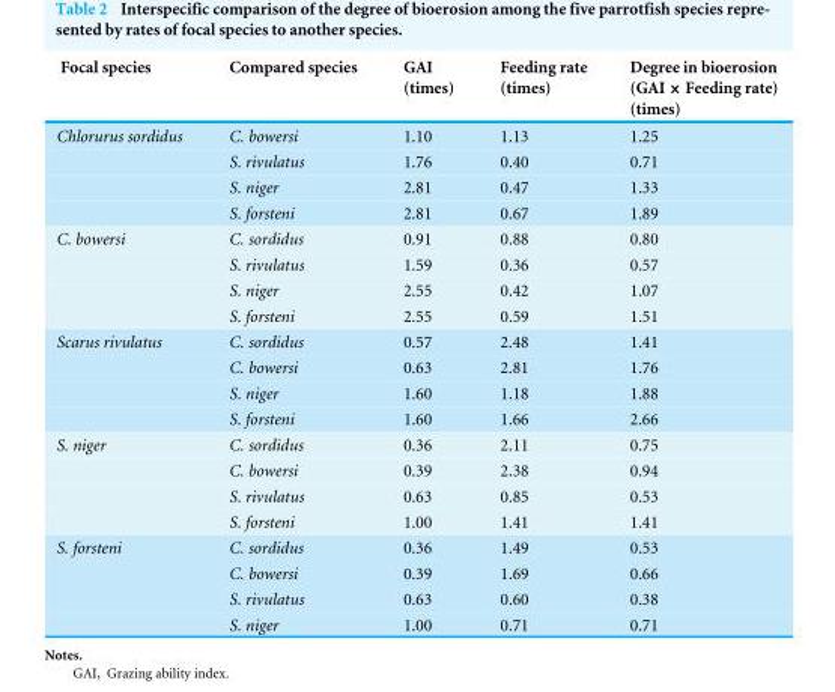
<table><thead><tr><td>Focal species</td><td>Compared species</td><td>GAI (times)</td><td>Feeding rate (times)</td><td>Degree in bioerosion (GAI × Feeding rate) (times)</td></tr></thead><tbody><tr><td rowspan="4">Chlorurus sordidus</td><td>C. bowersi</td><td>1.10</td><td>1.13</td><td>1.25</td></tr><tr><td>S. rivulatus</td><td>1.76</td><td>0.40</td><td>0.71</td></tr><tr><td>S. niger</td><td>2.81</td><td>0.47</td><td>1.33</td></tr><tr><td>S. forsteni</td><td>2.81</td><td>0.67</td><td>1.89</td></tr><tr><td rowspan="4">C. bowersi</td><td>C. sordidus</td><td>0.91</td><td>0.88</td><td>0.80</td></tr><tr><td>S. rivulatus</td><td>1.59</td><td>0.36</td><td>0.57</td></tr><tr><td>S. niger</td><td>2.55</td><td>0.42</td><td>1.07</td></tr><tr><td>S. forsteni</td><td>2.55</td><td>0.59</td><td>1.51</td></tr><tr><td rowspan="4">Scarus rivulatus</td><td>C. sordidus</td><td>0.57</td><td>2.48</td><td>1.41</td></tr><tr><td>C. bowersi</td><td>0.63</td><td>2.81</td><td>1.76</td></tr><tr><td>S. niger</td><td>1.60</td><td>1.18</td><td>1.88</td></tr><tr><td>S. forsteni</td><td>1.60</td><td>1.66</td><td>2.66</td></tr><tr><td rowspan="4">S. niger</td><td>C. sordidus</td><td>0.36</td><td>2.11</td><td>0.75</td></tr><tr><td>C. bowersi</td><td>0.39</td><td>2.38</td><td>0.94</td></tr><tr><td>S. rivulatus</td><td>0.63</td><td>0.85</td><td>0.53</td></tr><tr><td>S. forsteni</td><td>1.00</td><td>1.41</td><td>1.41</td></tr><tr><td rowspan="4">S. forsteni</td><td>C. sordidus</td><td>0.36</td><td>1.49</td><td>0.53</td></tr><tr><td>C. bowersi</td><td>0.39</td><td>1.69</td><td>0.66</td></tr><tr><td>S. rivulatus</td><td>0.63</td><td>0.60</td><td>0.38</td></tr><tr><td>S. niger</td><td>1.00</td><td>0.71</td><td>0.71</td></tr></tbody></table>